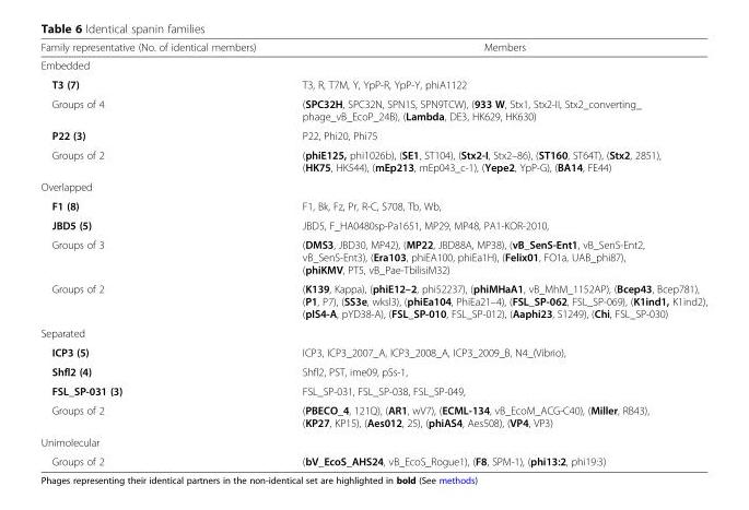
<table><thead><tr><td>Family representative (No. of identical members)</td><td>Members</td></tr></thead><tbody><tr><td colspan="2">Embedded</td></tr><tr><td>T3 (7)</td><td>T3, R, T7M, Y, YpP-R, YpP-Y, phiA1122</td></tr><tr><td>Groups of 4</td><td>(SPC32H, SPC32N, SPN1S, SPN9TCW), (933 W, Stx1, Stx2-II, Stx2_converting_ phage_vB_EcoP_24B), (Lambda, DE3, HK629, HK630)</td></tr><tr><td>P22 (3)</td><td>P22, Phi20, Phi75</td></tr><tr><td>Groups of 2</td><td>(phiE125, phi1026b), (SE1, ST104), (Stx2-I, Stx2–86), (ST160, ST64T), (Stx2, 2851), (HK75, HK544), (mEp213, mEp043_c-1), (Yepe2, YpP-G), (BA14, FE44)</td></tr><tr><td colspan="2">Overlapped</td></tr><tr><td>F1 (8)</td><td>F1, Bk, Fz, Pr, R-C, S708, Tb, Wb,</td></tr><tr><td>JBD5 (5)</td><td>JBD5, F_HA0480sp-Pa1651, MP29, MP48, PA1-KOR-2010,</td></tr><tr><td>Groups of 3</td><td>(DMS3, JBD30, MP42), (MP22, JBD88A, MP38), (vB_SenS-Ent1, vB_SenS-Ent2, vB_SenS-Ent3), (Era103, phiEA100, phiEa1H), (Felix01, FO1a, UAB_phi87), (phiKMV, PT5, vB_Pae-TbilisiM32)</td></tr><tr><td>Groups of 2</td><td>(K139, Kappa), (phiE12–2, phi52237), (phiMHaA1, vB_MhM_1152AP), (Bcep43, Bcep781), (P1, P7), (SS3e, wksl3), (phiEa104, PhiEa21–4), (FSL_SP-062, FSL_SP-069), (K1ind1, K1ind2), (pIS4-A, pYD38-A), (FSL_SP-010, FSL_SP-012), (Aaphi23, S1249), (Chi, FSL_SP-030)</td></tr><tr><td colspan="2">Separated</td></tr><tr><td>ICP3 (5)</td><td>ICP3, ICP3_2007_A, ICP3_2008_A, ICP3_2009_B, N4_(Vibrio),</td></tr><tr><td>Shfl2 (4)</td><td>Shfl2, PST, ime09, pSs-1,</td></tr><tr><td>FSL_SP-031 (3)</td><td>FSL_SP-031, FSL_SP-038, FSL_SP-049,</td></tr><tr><td>Groups of 2</td><td>(PBECO_4, 121Q), (AR1, wV7), (ECML-134, vB_EcoM_ACG-C40), (Miller, RB43), (KP27, KP15), (Aes012, 25), (phiAS4, Aes508), (VP4, VP3)</td></tr><tr><td colspan="2">Unimolecular</td></tr><tr><td>Groups of 2</td><td>(bV_EcoS_AHS24, vB_EcoS_Rogue1), (F8, SPM-1), (phi13:2, phi19:3)</td></tr></tbody></table>